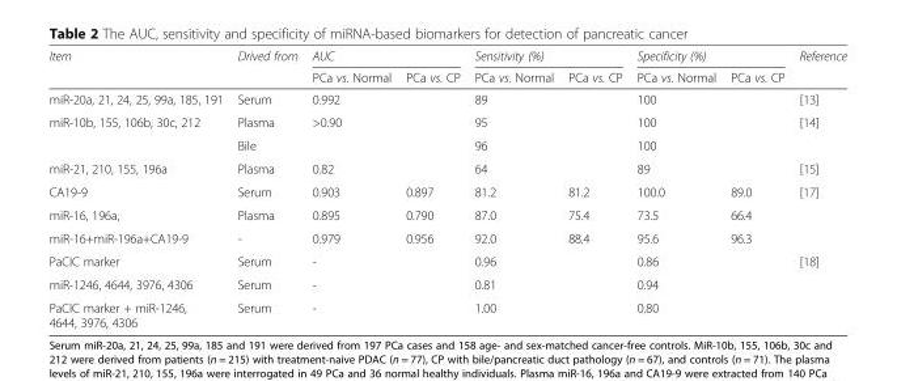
<table><thead><tr><td rowspan="2">Item</td><td rowspan="2">Drived from</td><td colspan="2">AUC</td><td colspan="2">Sensitivity (%)</td><td colspan="2">Specificity (%)</td><td rowspan="2">Reference</td></tr><tr><td>PCa vs. Normal</td><td>PCa vs. CP</td><td>PCa vs. Normal</td><td>PCa vs. CP</td><td>PCa vs. Normal</td><td>PCa vs. CP</td></tr></thead><tbody><tr><td>miR-20a, 21, 24, 25, 99a, 185, 191</td><td>Serum</td><td colspan="2">0.992</td><td colspan="2">89</td><td colspan="2">100</td><td>[13]</td></tr><tr><td rowspan="2">miR-10b, 155, 106b, 30c, 212</td><td>Plasma</td><td rowspan="2" colspan="2">&gt;0.90</td><td colspan="2">95</td><td colspan="2">100</td><td rowspan="2">[14]</td></tr><tr><td>Bile</td><td colspan="2">96</td><td colspan="2">100</td></tr><tr><td>miR-21, 210, 155, 196a</td><td>Plasma</td><td colspan="2">0.82</td><td colspan="2">64</td><td colspan="2">89</td><td>[15]</td></tr><tr><td>CA19-9</td><td>Serum</td><td>0.903</td><td>0.897</td><td>81.2</td><td>81.2</td><td>100.0</td><td>89.0</td><td rowspan="3">[17]</td></tr><tr><td>miR-16, 196a,</td><td>Plasma</td><td>0.895</td><td>0.790</td><td>87.0</td><td>75.4</td><td>73.5</td><td>66.4</td></tr><tr><td>miR-16+miR-196a+CA19-9</td><td>-</td><td>0.979</td><td>0.956</td><td>92.0</td><td>88.4</td><td>95.6</td><td>96.3</td></tr><tr><td>PaCIC marker</td><td>Serum</td><td colspan="2">-</td><td colspan="2">0.96</td><td colspan="2">0.86</td><td rowspan="3">[18]</td></tr><tr><td>miR-1246, 4644, 3976, 4306</td><td>Serum</td><td colspan="2">-</td><td colspan="2">0.81</td><td colspan="2">0.94</td></tr><tr><td>PaCIC marker + miR-1246, 4644, 3976, 4306</td><td>Serum</td><td colspan="2">-</td><td colspan="2">1.00</td><td colspan="2">0.80</td></tr></tbody></table>